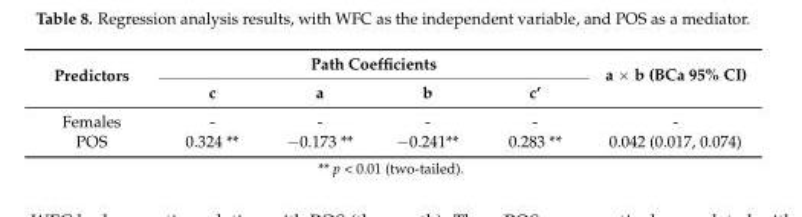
<table><thead><tr><td rowspan="2">Predictors</td><td colspan="4">Path Coefficients</td><td rowspan="2">a ˆ b (BCa 95% CI)</td></tr><tr><td>c</td><td>a</td><td>b</td><td>c’</td></tr></thead><tbody><tr><td>Females</td><td>-</td><td>-</td><td>-</td><td>-</td><td>-</td></tr><tr><td>POS</td><td>0.324 **</td><td>´0.173 **</td><td>´0.241**</td><td>0.283 **</td><td>0.042 (0.017, 0.074)</td></tr></tbody></table>